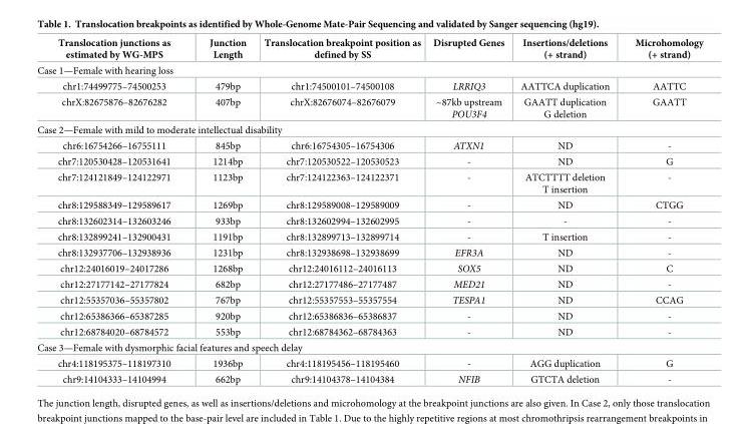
<table><thead><tr><td>Translocation junctions as estimated by WG-MPS</td><td>Junction Length</td><td>Translocation breakpoint position as defined by SS</td><td>Disrupted Genes</td><td>Insertions/deletions (+ strand)</td><td>Microhomology (+ strand)</td></tr></thead><tbody><tr><td colspan="6">Case 1—Female with hearing loss</td></tr><tr><td>chr1:74499775–74500253</td><td>479bp</td><td>chr1:74500101–74500108</td><td>LRRIQ3</td><td>AATTCA duplication</td><td>AATTC</td></tr><tr><td>chrX:82675876–82676282</td><td>407bp</td><td>chrX:82676074–82676079</td><td>~87kb upstream POU3F4</td><td>GAATT duplication G deletion</td><td>GAATT</td></tr><tr><td colspan="6">Case 2—Female with mild to moderate intellectual disability</td></tr><tr><td>chr6:16754266–16755111</td><td>845bp</td><td>chr6:16754305–16754306</td><td>ATXN1</td><td>ND</td><td>-</td></tr><tr><td>chr7:120530428–120531641</td><td>1214bp</td><td>chr7:120530522–120530523</td><td>-</td><td>ND</td><td>G</td></tr><tr><td>chr7:124121849–124122971</td><td>1123bp</td><td>chr7:124122363–124122371</td><td>-</td><td>ATCTTTT deletion T insertion</td><td>-</td></tr><tr><td>chr8:129588349–129589617</td><td>1269bp</td><td>chr8:129589008–129589009</td><td>-</td><td>ND</td><td>CTGG</td></tr><tr><td>chr8:132602314–132603246</td><td>933bp</td><td>chr8:132602994–132602995</td><td>-</td><td>-</td><td>-</td></tr><tr><td>chr8:132899241–132900431</td><td>1191bp</td><td>chr8:132899713–132899714</td><td>-</td><td>T insertion</td><td>-</td></tr><tr><td>chr8:132937706–132938936</td><td>1231bp</td><td>chr8:132938698–132938699</td><td>EFR3A</td><td>ND</td><td>-</td></tr><tr><td>chr12:24016019–24017286</td><td>1268bp</td><td>chr12:24016112–24016113</td><td>SOX5</td><td>ND</td><td>C</td></tr><tr><td>chr12:27177142–27177824</td><td>682bp</td><td>chr12:27177486–27177487</td><td>MED21</td><td>ND</td><td>-</td></tr><tr><td>chr12:55357036–55357802</td><td>767bp</td><td>chr12:55357553–55357554</td><td>TESPA1</td><td>ND</td><td>CCAG</td></tr><tr><td>chr12:65386366–65387285</td><td>920bp</td><td>chr12:65386836–65386837</td><td>-</td><td>ND</td><td>-</td></tr><tr><td>chr12:68784020–68784572</td><td>553bp</td><td>chr12:68784362–68784363</td><td>-</td><td>ND</td><td>-</td></tr><tr><td colspan="6">Case 3—Female with dysmorphic facial features and speech delay</td></tr><tr><td>chr4:118195375–118197310</td><td>1936bp</td><td>chr4:118195456–118195460</td><td>-</td><td>AGG duplication</td><td>G</td></tr><tr><td>chr9:14104333–14104994</td><td>662bp</td><td>chr9:14104378–14104384</td><td>NFIB</td><td>GTCTA deletion</td><td>-</td></tr></tbody></table>